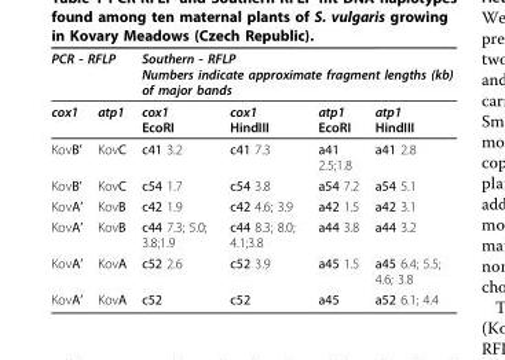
<table><thead><tr><td colspan="2">PCR - RFLP</td><td colspan="4">Southern - RFLP Numbers indicate approximate fragment lengths (kb) of major bands</td></tr><tr><td>cox1</td><td>atp1</td><td>cox1 EcoRI</td><td>cox1 HindIII</td><td>atp1 EcoRI</td><td>atp1 HindIII</td></tr></thead><tbody><tr><td>KovB’</td><td>KovC</td><td>c41 3.2</td><td>c41 7.3</td><td>a41 2.5;1.8</td><td>a41 2.8</td></tr><tr><td>KovB’</td><td>KovC</td><td>c54 1.7</td><td>c54 3.8</td><td>a54 7.2</td><td>a54 5.1</td></tr><tr><td>KovA’</td><td>KovB</td><td>c42 1.9</td><td>c42 4.6; 3.9</td><td>a42 1.5</td><td>a42 3.1</td></tr><tr><td>KovA’</td><td>KovB</td><td>c44 7.3; 5.0; 3.8;1.9</td><td>c44 8.3; 8.0; 4.1;3.8</td><td>a44 3.8</td><td>a44 3.2</td></tr><tr><td>KovA’</td><td>KovA</td><td>c52 2.6</td><td>c52 3.9</td><td>a45 1.5</td><td>a45 6.4; 5.5; 4.6; 3.8</td></tr><tr><td>KovA’</td><td>KovA</td><td>c52</td><td>c52</td><td>a45</td><td>a52 6.1; 4.4</td></tr></tbody></table>